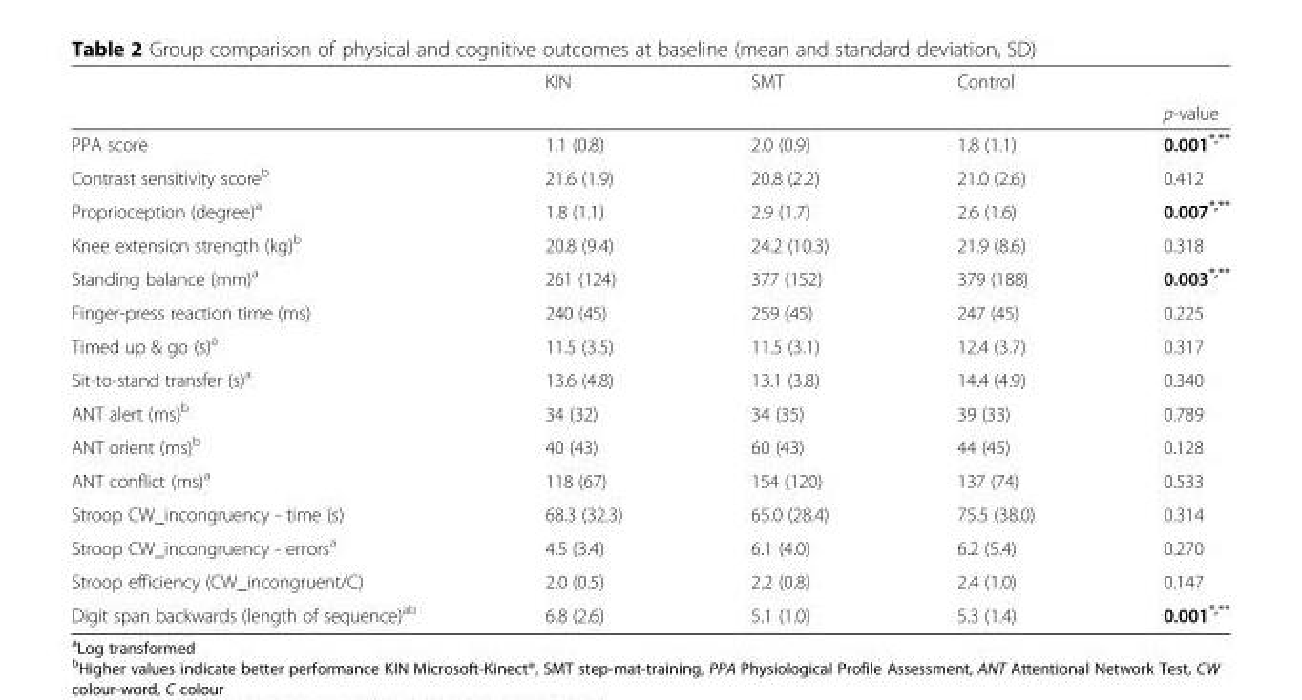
<table><thead><tr><td rowspan="2"></td><td rowspan="2">KIN</td><td rowspan="2">SMT</td><td rowspan="2">Control</td><td rowspan="2">p-value</td></tr><tr></tr></thead><tbody><tr><td>PPA score</td><td>1.1 (0.8)</td><td>2.0 (0.9)</td><td>1.8 (1.1)</td><td>0.001<sup>*,**</sup></td></tr><tr><td>Contrast sensitivity score<sup>b</sup></td><td>21.6 (1.9)</td><td>20.8 (2.2)</td><td>21.0 (2.6)</td><td>0.412</td></tr><tr><td>Proprioception (degree)<sup>a</sup></td><td>1.8 (1.1)</td><td>2.9 (1.7)</td><td>2.6 (1.6)</td><td>0.007<sup>*,**</sup></td></tr><tr><td>Knee extension strength (kg)<sup>b</sup></td><td>20.8 (9.4)</td><td>24.2 (10.3)</td><td>21.9 (8.6)</td><td>0.318</td></tr><tr><td>Standing balance (mm)<sup>a</sup></td><td>261 (124)</td><td>377 (152)</td><td>379 (188)</td><td>0.003<sup>*,**</sup></td></tr><tr><td>Finger-press reaction time (ms)</td><td>240 (45)</td><td>259 (45)</td><td>247 (45)</td><td>0.225</td></tr><tr><td>Timed up &amp; go (s)<sup>a</sup></td><td>11.5 (3.5)</td><td>11.5 (3.1)</td><td>12.4 (3.7)</td><td>0.317</td></tr><tr><td>Sit-to-stand transfer (s)<sup>a</sup></td><td>13.6 (4.8)</td><td>13.1 (3.8)</td><td>14.4 (4.9)</td><td>0.340</td></tr><tr><td>ANT alert (ms)<sup>b</sup></td><td>34 (32)</td><td>34 (35)</td><td>39 (33)</td><td>0.789</td></tr><tr><td>ANT orient (ms)<sup>b</sup></td><td>40 (43)</td><td>60 (43)</td><td>44 (45)</td><td>0.128</td></tr><tr><td>ANT conflict (ms)<sup>a</sup></td><td>118 (67)</td><td>154 (120)</td><td>137 (74)</td><td>0.533</td></tr><tr><td>Stroop CW_incongruency - time (s)</td><td>68.3 (32.3)</td><td>65.0 (28.4)</td><td>75.5 (38.0)</td><td>0.314</td></tr><tr><td>Stroop CW_incongruency - errors<sup>a</sup></td><td>4.5 (3.4)</td><td>6.1 (4.0)</td><td>6.2 (5.4)</td><td>0.270</td></tr><tr><td>Stroop efficiency (CW_incongruent/C)</td><td>2.0 (0.5)</td><td>2.2 (0.8)</td><td>2.4 (1.0)</td><td>0.147</td></tr><tr><td>Digit span backwards (length of sequence)<sup>ab</sup></td><td>6.8 (2.6)</td><td>5.1 (1.0)</td><td>5.3 (1.4)</td><td>0.001<sup>*,**</sup></td></tr></tbody></table>